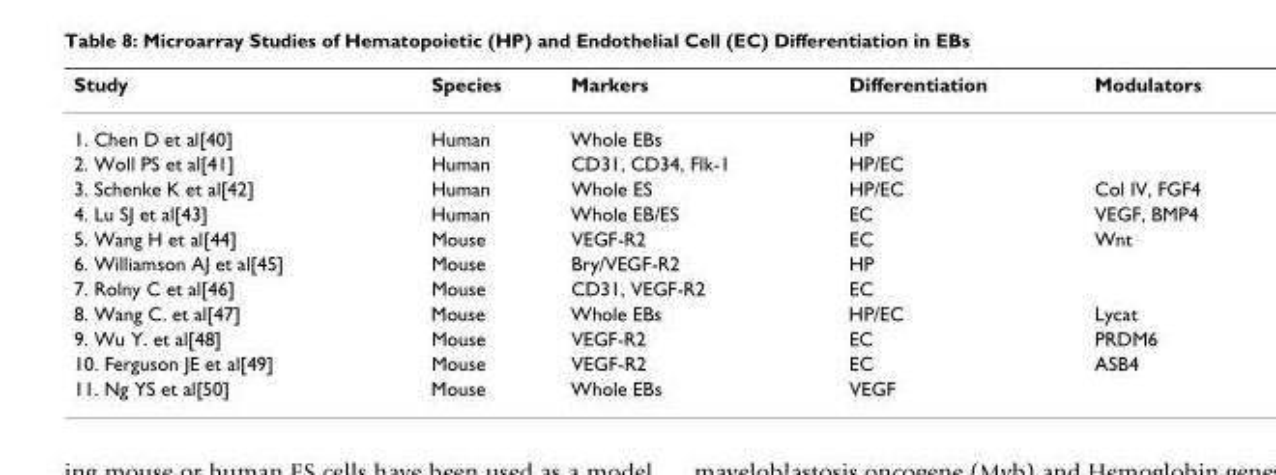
<table><thead><tr><td>Study</td><td>Species</td><td>Markers</td><td>Differentiation</td><td>Modulators</td></tr></thead><tbody><tr><td>1. Chen D et al[40]</td><td>Human</td><td>Whole EBs</td><td>HP</td><td></td></tr><tr><td>2. Woll PS et al[41]</td><td>Human</td><td>CD31, CD34, Flk-1</td><td>HP/EC</td><td></td></tr><tr><td>3. Schenke K et al[42]</td><td>Human</td><td>Whole ES</td><td>HP/EC</td><td>Col IV, FGF4</td></tr><tr><td>4. Lu SJ et al[43]</td><td>Human</td><td>Whole EB/ES</td><td>EC</td><td>VEGF, BMP4</td></tr><tr><td>5. Wang H et al[44]</td><td>Mouse</td><td>VEGF-R2</td><td>EC</td><td>Wnt</td></tr><tr><td>6. Williamson AJ et al[45]</td><td>Mouse</td><td>Bry/VEGF-R2</td><td>HP</td><td></td></tr><tr><td>7. Rolny C et al[46]</td><td>Mouse</td><td>CD31, VEGF-R2</td><td>EC</td><td></td></tr><tr><td>8. Wang C. et al[47]</td><td>Mouse</td><td>Whole EBs</td><td>HP/EC</td><td>Lycat</td></tr><tr><td>9. Wu Y. et al[48]</td><td>Mouse</td><td>VEGF-R2</td><td>EC</td><td>PRDM6</td></tr><tr><td>10. Ferguson JE et al[49]</td><td>Mouse</td><td>VEGF-R2</td><td>EC</td><td>ASB4</td></tr><tr><td>11. Ng YS et al[50]</td><td>Mouse</td><td>Whole EBs</td><td>VEGF</td><td></td></tr></tbody></table>